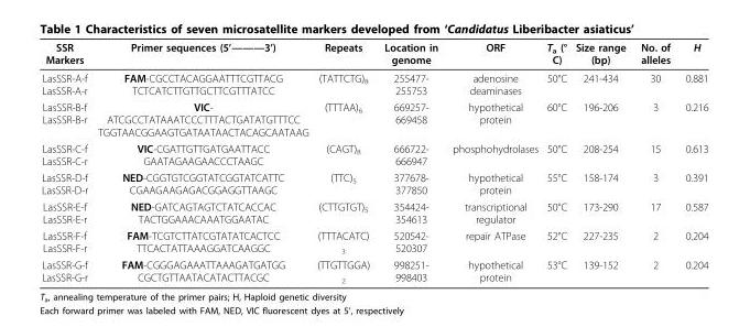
<table><thead><tr><td>SSR Markers</td><td>Primer sequences (5’———3’)</td><td>Repeats</td><td>Location in genome</td><td>ORF</td><td>T<sub>a</sub> (° C)</td><td>Size range (bp)</td><td>No. of alleles</td><td>H</td></tr></thead><tbody><tr><td>LasSSR-A-f LasSSR-A-r</td><td>FAM-CGCCTACAGGAATTTCGTTACG TCTCATCTTGTTGCTTCGTTTATCC</td><td>(TATTCTG)<sub>8</sub></td><td>255477- 255753</td><td>adenosine deaminases</td><td>50°C</td><td>241-434</td><td>30</td><td>0.881</td></tr><tr><td>LasSSR-B-f LasSSR-B-r</td><td>VIC- ATCGCCTATAAATCCCTTTACTGATATGTTTCC TGGTAACGGAAGTGATAATAACTACAGCAATAAG</td><td>(TTTAA)<sub>6</sub></td><td>669257- 669458</td><td>hypothetical protein</td><td>60°C</td><td>196-206</td><td>3</td><td>0.216</td></tr><tr><td>LasSSR-C-f LasSSR-C-r</td><td>VIC-CGATTGTTGATGAATTACC GAATAGAAGAACCCTAAGC</td><td>(CAGT)<sub>8</sub></td><td>666722- 666947</td><td>phosphohydrolases</td><td>50°C</td><td>208-254</td><td>15</td><td>0.613</td></tr><tr><td>LasSSR-D-f LasSSR-D-r</td><td>NED-CGGTGTCGGTATCGGTATCATTC CGAAGAAGAGACGGAGGTTAAGC</td><td>(TTC)<sub>5</sub></td><td>377678- 377850</td><td>hypothetical protein</td><td>55°C</td><td>158-174</td><td>3</td><td>0.391</td></tr><tr><td>LasSSR-E-f LasSSR-E-r</td><td>NED-GATCAGTAGTCTATCACCAC TACTGGAAACAAATGGAATAC</td><td>(CTTGTGT)<sub>5</sub></td><td>354424- 354613</td><td>transcriptional regulator</td><td>50°C</td><td>173-290</td><td>17</td><td>0.587</td></tr><tr><td>LasSSR-F-f LasSSR-F-r</td><td>FAM-TCGTCTTATCGTATATCACTCC TTCACTATTAAAGGATCAAGGC</td><td>(TTTACATC) <sub>3</sub></td><td>520542- 520307</td><td>repair ATPase</td><td>52°C</td><td>227-235</td><td>2</td><td>0.204</td></tr><tr><td>LasSSR-G-f LasSSR-G-r</td><td>FAM-CGGGAGAAATTAAAGATGATGG CGCTGTTAATACATACTTACGC</td><td>(TTGTTGGA) <sub>2</sub></td><td>998251- 998403</td><td>hypothetical protein</td><td>53°C</td><td>139-152</td><td>2</td><td>0.204</td></tr></tbody></table>